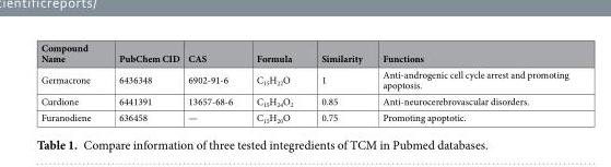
<table><thead><tr><td>Compound Name</td><td>PubChem CID</td><td>CAS</td><td>Formula</td><td>Similarity</td><td>Functions</td></tr></thead><tbody><tr><td>Germacrone</td><td>6436348</td><td>6902-91-6</td><td>C<sub>15</sub>H<sub>22</sub>O</td><td>1</td><td>Anti-androgenic cell cycle arrest and promoting apoptosis.</td></tr><tr><td>Curdione</td><td>6441391</td><td>13657-68-6</td><td>C<sub>15</sub>H<sub>24</sub>O<sub>2</sub></td><td>0.85</td><td>Anti-neurocerebrovascular disorders.</td></tr><tr><td>Furanodiene</td><td>636458</td><td>—</td><td>C<sub>15</sub>H<sub>20</sub>O</td><td>0.75</td><td>Promoting apoptotic.</td></tr></tbody></table>